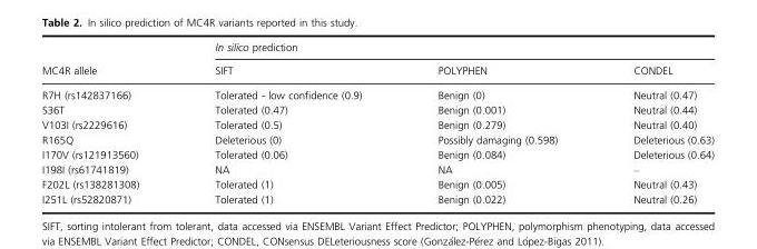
<table><thead><tr><td rowspan="2">MC4R allele</td><td colspan="3">In silico prediction</td></tr><tr><td>SIFT</td><td>POLYPHEN</td><td>CONDEL</td></tr></thead><tbody><tr><td>R7H (rs142837166)</td><td>Tolerated - low confidence (0.9)</td><td>Benign (0)</td><td>Neutral (0.47)</td></tr><tr><td>S36T</td><td>Tolerated (0.47)</td><td>Benign (0.001)</td><td>Neutral (0.44)</td></tr><tr><td>V103I (rs2229616)</td><td>Tolerated (0.5)</td><td>Benign (0.279)</td><td>Neutral (0.40)</td></tr><tr><td>R165Q</td><td>Deleterious (0)</td><td>Possibly damaging (0.598)</td><td>Deleterious (0.63)</td></tr><tr><td>I170V (rs121913560)</td><td>Tolerated (0.06)</td><td>Benign (0.084)</td><td>Deleterious (0.64)</td></tr><tr><td>I198I (rs61741819)</td><td>NA</td><td>NA</td><td>–</td></tr><tr><td>F202L (rs138281308)</td><td>Tolerated (1)</td><td>Benign (0.005)</td><td>Neutral (0.43)</td></tr><tr><td>I251L (rs52820871)</td><td>Tolerated (1)</td><td>Benign (0.022)</td><td>Neutral (0.26)</td></tr></tbody></table>